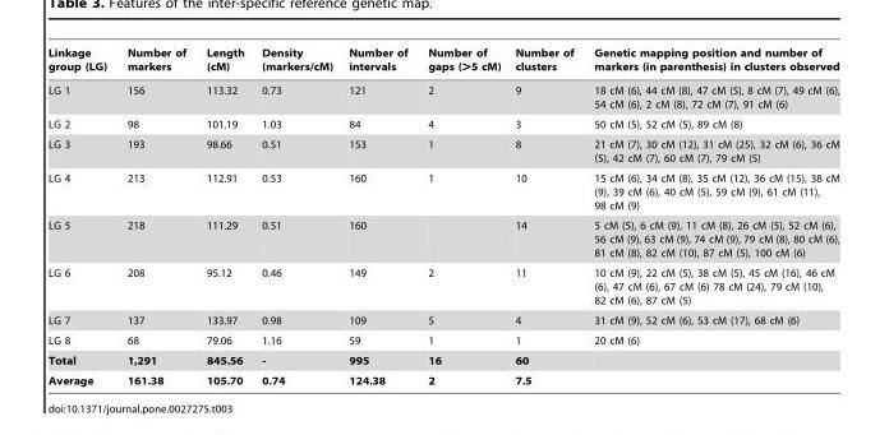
<table><thead><tr><td>Linkage group (LG)</td><td>Number of markers</td><td>Length (cM)</td><td>Density (markers/cM)</td><td>Number of intervals</td><td>Number of gaps (&gt;5 cM)</td><td>Number of clusters</td><td>Genetic mapping position and number of markers (in parenthesis) in clusters observed</td></tr></thead><tbody><tr><td>LG 1</td><td>156</td><td>113.32</td><td>0.73</td><td>121</td><td>2</td><td>9</td><td>18 cM (6), 44 cM (8), 47 cM (5), 8 cM (7), 49 cM (6), 54 cM (6), 2 cM (8), 72 cM (7), 91 cM (6)</td></tr><tr><td>LG 2</td><td>98</td><td>101.19</td><td>1.03</td><td>84</td><td>4</td><td>3</td><td>50 cM (5), 52 cM (5), 89 cM (8)</td></tr><tr><td>LG 3</td><td>193</td><td>98.66</td><td>0.51</td><td>153</td><td>1</td><td>8</td><td>21 cM (7), 30 cM (12), 31 cM (25), 32 cM (6), 36 cM (5), 42 cM (7), 60 cM (7), 79 cM (5)</td></tr><tr><td>LG 4</td><td>213</td><td>112.91</td><td>0.53</td><td>160</td><td>1</td><td>10</td><td>15 cM (6), 34 cM (8), 35 cM (12), 36 cM (15), 38 cM (9), 39 cM (6), 40 cM (5), 59 cM (9), 61 cM (11), 98 cM (9)</td></tr><tr><td>LG 5</td><td>218</td><td>111.29</td><td>0.51</td><td>160</td><td></td><td>14</td><td>5 cM (5), 6 cM (9), 11 cM (8), 26 cM (5), 52 cM (6), 56 cM (9), 63 cM (9), 74 cM (9), 79 cM (8), 80 cM (6), 81 cM (8), 82 cM (10), 87 cM (5), 100 cM (6)</td></tr><tr><td>LG 6</td><td>208</td><td>95.12</td><td>0.46</td><td>149</td><td>2</td><td>11</td><td>10 cM (9), 22 cM (5), 38 cM (5), 45 cM (16), 46 cM (6), 47 cM (6), 67 cM (6) 78 cM (24), 79 cM (10), 82 cM (6), 87 cM (5)</td></tr><tr><td>LG 7</td><td>137</td><td>133.97</td><td>0.98</td><td>109</td><td>5</td><td>4</td><td>31 cM (9), 52 cM (6), 53 cM (17), 68 cM (6)</td></tr><tr><td>LG 8</td><td>68</td><td>79.06</td><td>1.16</td><td>59</td><td>1</td><td>1</td><td>20 cM (6)</td></tr><tr><td>Total</td><td>1,291</td><td>845.56</td><td>-</td><td>995</td><td>16</td><td>60</td><td></td></tr><tr><td>Average</td><td>161.38</td><td>105.70</td><td>0.74</td><td>124.38</td><td>2</td><td>7.5</td><td></td></tr></tbody></table>